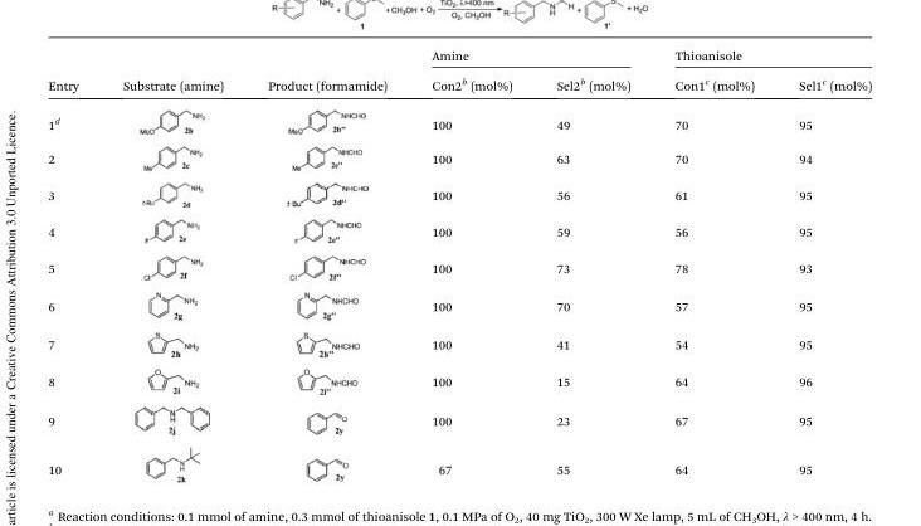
<table><thead><tr><td rowspan="2">Entry</td><td rowspan="2">Substrate (amine)</td><td rowspan="2">Product (formamide)</td><td colspan="2">Amine</td><td colspan="2">Thioanisole</td></tr><tr><td>Con2<sup>b</sup> (mol%)</td><td>Sel2<sup>b</sup> (mol%)</td><td>Con1<sup>c</sup> (mol%)</td><td>Sel1<sup>c</sup> (mol%)</td></tr></thead><tbody><tr><td>1<sup>d</sup></td><td></td><td></td><td>100</td><td>49</td><td>70</td><td>95</td></tr><tr><td>2</td><td></td><td></td><td>100</td><td>63</td><td>70</td><td>94</td></tr><tr><td>3</td><td></td><td></td><td>100</td><td>56</td><td>61</td><td>95</td></tr><tr><td>4</td><td></td><td></td><td>100</td><td>59</td><td>56</td><td>95</td></tr><tr><td>5</td><td></td><td></td><td>100</td><td>73</td><td>78</td><td>93</td></tr><tr><td>6</td><td></td><td></td><td>100</td><td>70</td><td>57</td><td>95</td></tr><tr><td>7</td><td></td><td></td><td>100</td><td>41</td><td>54</td><td>95</td></tr><tr><td>8</td><td></td><td></td><td>100</td><td>15</td><td>64</td><td>96</td></tr><tr><td>9</td><td></td><td></td><td>100</td><td>23</td><td>67</td><td>95</td></tr><tr><td>10</td><td></td><td></td><td>67</td><td>55</td><td>64</td><td>95</td></tr></tbody></table>